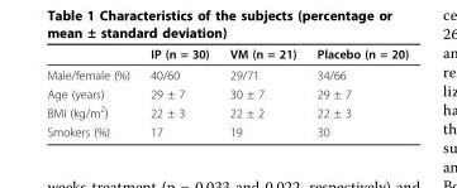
<table><thead><tr><td></td><td>IP (n = 30)</td><td>VM (n = 21)</td><td>Placebo (n = 20)</td></tr></thead><tbody><tr><td>Male/female (%)</td><td>40/60</td><td>29/71</td><td>34/66</td></tr><tr><td>Age (years)</td><td>29 ± 7</td><td>30 ± 7</td><td>29 ± 7</td></tr><tr><td>BMI (kg/m<sup>2</sup>)</td><td>22 ± 3</td><td>22 ± 2</td><td>22 ± 3</td></tr><tr><td>Smokers (%)</td><td>17</td><td>19</td><td>30</td></tr></tbody></table>